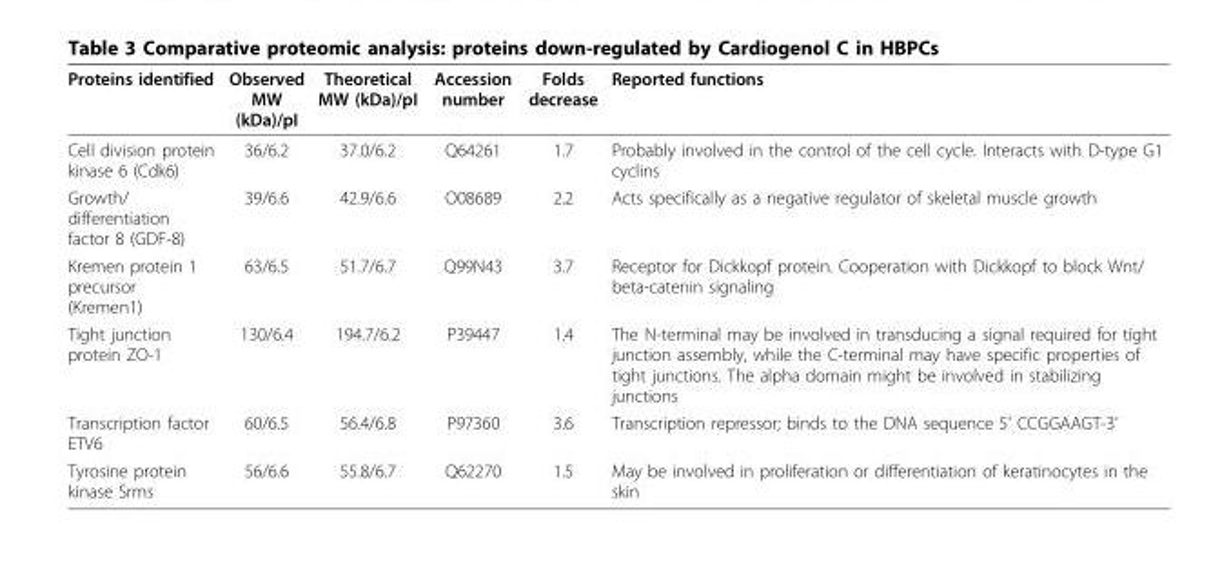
<table><thead><tr><td>Proteins identified</td><td>Observed MW (kDa)/pI</td><td>Theoretical MW (kDa)/pI</td><td>Accession number</td><td>Folds decrease</td><td>Reported functions</td></tr></thead><tbody><tr><td>Cell division protein kinase 6 (Cdk6)</td><td>36/6.2</td><td>37.0/6.2</td><td>Q64261</td><td>1.7</td><td>Probably involved in the control of the cell cycle. Interacts with D-type G1 cyclins</td></tr><tr><td>Growth/ differentiation factor 8 (GDF-8)</td><td>39/6.6</td><td>42.9/6.6</td><td>O08689</td><td>2.2</td><td>Acts specifically as a negative regulator of skeletal muscle growth</td></tr><tr><td>Kremen protein 1 precursor (Kremen1)</td><td>63/6.5</td><td>51.7/6.7</td><td>Q99N43</td><td>3.7</td><td>Receptor for Dickkopf protein. Cooperation with Dickkopf to block Wnt/ beta-catenin signaling</td></tr><tr><td>Tight junction protein ZO-1</td><td>130/6.4</td><td>194.7/6.2</td><td>P39447</td><td>1.4</td><td>The N-terminal may be involved in transducing a signal required for tight junction assembly, while the C-terminal may have specific properties of tight junctions. The alpha domain might be involved in stabilizing junctions</td></tr><tr><td>Transcription factor ETV6</td><td>60/6.5</td><td>56.4/6.8</td><td>P97360</td><td>3.6</td><td>Transcription repressor; binds to the DNA sequence 5’ CCGGAAGT-3’</td></tr><tr><td>Tyrosine protein kinase Srms</td><td>56/6.6</td><td>55.8/6.7</td><td>Q62270</td><td>1.5</td><td>May be involved in proliferation or differentiation of keratinocytes in the skin</td></tr></tbody></table>